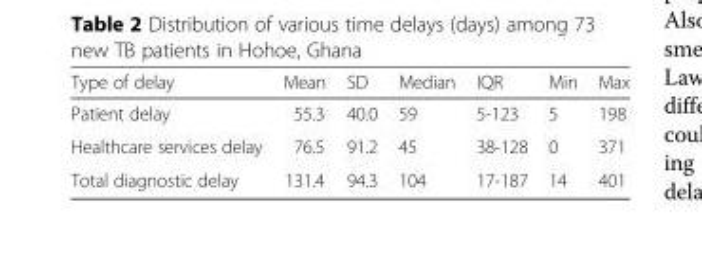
<table><thead><tr><td>Type of delay</td><td>Mean</td><td>SD</td><td>Median</td><td>IQR</td><td>Min</td><td>Max</td></tr></thead><tbody><tr><td>Patient delay</td><td>55.3</td><td>40.0</td><td>59</td><td>5-123</td><td>5</td><td>198</td></tr><tr><td>Healthcare services delay</td><td>76.5</td><td>91.2</td><td>45</td><td>38-128</td><td>0</td><td>371</td></tr><tr><td>Total diagnostic delay</td><td>131.4</td><td>94.3</td><td>104</td><td>17-187</td><td>14</td><td>401</td></tr></tbody></table>